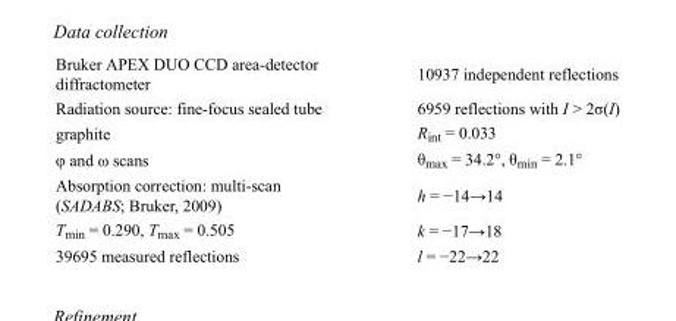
<table><tbody><tr><td>Bruker APEX DUO CCD area-detector diffractometer</td><td>10937 independent reflections</td></tr><tr><td>Radiation source: fine-focus sealed tube</td><td>6959 reflections with I &gt; 2σ(I)</td></tr><tr><td>graphite</td><td>R<sub>int</sub> = 0.033</td></tr><tr><td>φ and ω scans</td><td>θ<sub>max</sub> = 34.2°, θ<sub>min</sub> = 2.1°</td></tr><tr><td>Absorption correction: multi-scan (SADABS; Bruker, 2009)</td><td>h = −14→14</td></tr><tr><td>T<sub>min</sub> = 0.290, T<sub>max</sub> = 0.505</td><td>k = −17→18</td></tr><tr><td>39695 measured reflections</td><td>l = −22→22</td></tr></tbody></table>